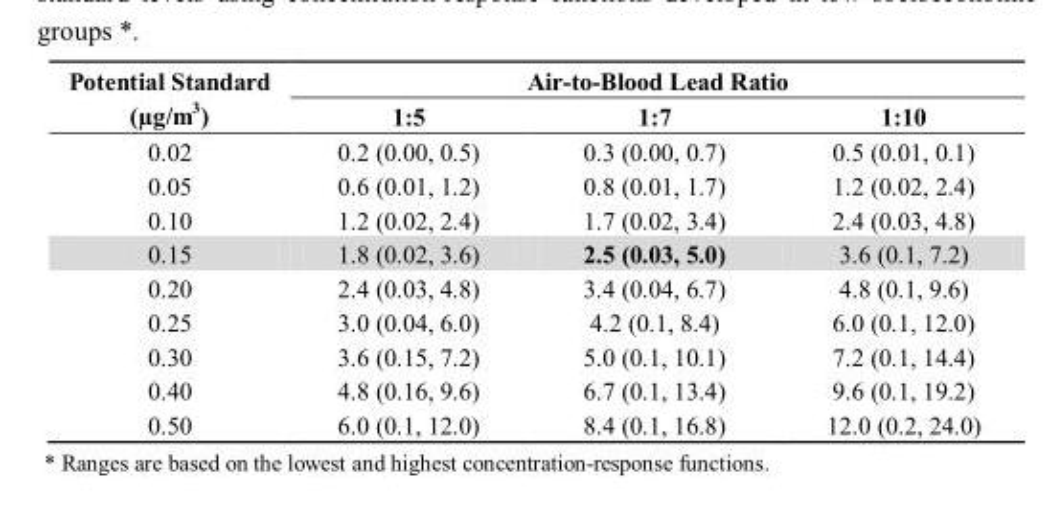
<table><thead><tr><td rowspan="2">Potential Standard (µg/m<sup>3</sup>)</td><td colspan="3">Air-to-Blood Lead Ratio</td></tr><tr><td>1:5</td><td>1:7</td><td>1:10</td></tr></thead><tbody><tr><td>0.02</td><td>0.2 (0.00, 0.5)</td><td>0.3 (0.00, 0.7)</td><td>0.5 (0.01, 0.1)</td></tr><tr><td>0.05</td><td>0.6 (0.01, 1.2)</td><td>0.8 (0.01, 1.7)</td><td>1.2 (0.02, 2.4)</td></tr><tr><td>0.10</td><td>1.2 (0.02, 2.4)</td><td>1.7 (0.02, 3.4)</td><td>2.4 (0.03, 4.8)</td></tr><tr><td>0.15</td><td>1.8 (0.02, 3.6)</td><td>2.5 (0.03, 5.0)</td><td>3.6 (0.1, 7.2)</td></tr><tr><td>0.20</td><td>2.4 (0.03, 4.8)</td><td>3.4 (0.04, 6.7)</td><td>4.8 (0.1, 9.6)</td></tr><tr><td>0.25</td><td>3.0 (0.04, 6.0)</td><td>4.2 (0.1, 8.4)</td><td>6.0 (0.1, 12.0)</td></tr><tr><td>0.30</td><td>3.6 (0.15, 7.2)</td><td>5.0 (0.1, 10.1)</td><td>7.2 (0.1, 14.4)</td></tr><tr><td>0.40</td><td>4.8 (0.16, 9.6)</td><td>6.7 (0.1, 13.4)</td><td>9.6 (0.1, 19.2)</td></tr><tr><td>0.50</td><td>6.0 (0.1, 12.0)</td><td>8.4 (0.1, 16.8)</td><td>12.0 (0.2, 24.0)</td></tr></tbody></table>